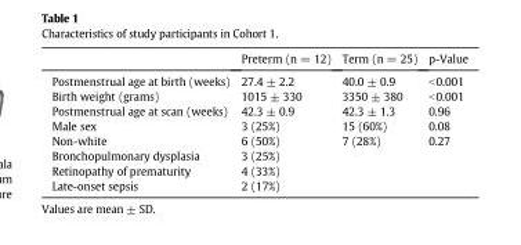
<table><thead><tr><td></td><td>Preterm (n = 12)</td><td>Term (n = 25)</td><td>p-Value</td></tr></thead><tbody><tr><td>Postmenstrual age at birth (weeks)</td><td>27.4 ± 2.2</td><td>40.0 ± 0.9</td><td>&lt;0.001</td></tr><tr><td>Birth weight (grams)</td><td>1015 ± 330</td><td>3350 ± 380</td><td>&lt;0.001</td></tr><tr><td>Postmenstrual age at scan (weeks)</td><td>42.3 ± 0.9</td><td>42.3 ± 1.3</td><td>0.96</td></tr><tr><td>Male sex</td><td>3 (25%)</td><td>15 (60%)</td><td>0.08</td></tr><tr><td>Non-white</td><td>6 (50%)</td><td>7 (28%)</td><td>0.27</td></tr><tr><td>Bronchopulmonary dysplasia</td><td>3 (25%)</td><td></td><td></td></tr><tr><td>Retinopathy of prematurity</td><td>4 (33%)</td><td></td><td></td></tr><tr><td>Late-onset sepsis</td><td>2 (17%)</td><td></td><td></td></tr></tbody></table>